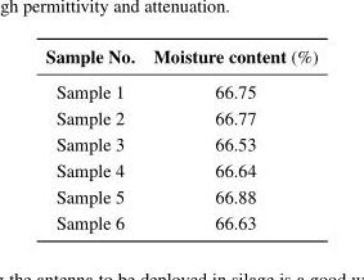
<table><thead><tr><td>Sample No.</td><td>Moisture content (%)</td></tr></thead><tbody><tr><td>Sample 1</td><td>66.75</td></tr><tr><td>Sample 2</td><td>66.77</td></tr><tr><td>Sample 3</td><td>66.53</td></tr><tr><td>Sample 4</td><td>66.64</td></tr><tr><td>Sample 5</td><td>66.88</td></tr><tr><td>Sample 6</td><td>66.63</td></tr></tbody></table>